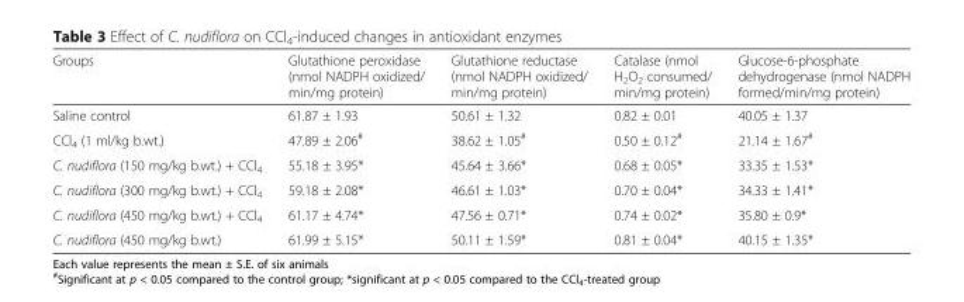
<table><thead><tr><td>Groups</td><td>Glutathione peroxidase (nmol NADPH oxidized/ min/mg protein)</td><td>Glutathione reductase (nmol NADPH oxidized/ min/mg protein)</td><td>Catalase (nmol H<sub>2</sub>O<sub>2</sub> consumed/ min/mg protein)</td><td>Glucose-6-phosphate dehydrogenase (nmol NADPH formed/min/mg protein)</td></tr></thead><tbody><tr><td>Saline control</td><td>61.87 ± 1.93</td><td>50.61 ± 1.32</td><td>0.82 ± 0.01</td><td>40.05 ± 1.37</td></tr><tr><td>CCl<sub>4</sub> (1 ml/kg b.wt.)</td><td>47.89 ± 2.06<sup>#</sup></td><td>38.62 ± 1.05<sup>#</sup></td><td>0.50 ± 0.12<sup>#</sup></td><td>21.14 ± 1.67<sup>#</sup></td></tr><tr><td>C. nudiflora (150 mg/kg b.wt.) + CCl<sub>4</sub></td><td>55.18 ± 3.95*</td><td>45.64 ± 3.66*</td><td>0.68 ± 0.05*</td><td>33.35 ± 1.53*</td></tr><tr><td>C. nudiflora (300 mg/kg b.wt.) + CCl<sub>4</sub></td><td>59.18 ± 2.08*</td><td>46.61 ± 1.03*</td><td>0.70 ± 0.04*</td><td>34.33 ± 1.41*</td></tr><tr><td>C. nudiflora (450 mg/kg b.wt.) + CCl<sub>4</sub></td><td>61.17 ± 4.74*</td><td>47.56 ± 0.71*</td><td>0.74 ± 0.02*</td><td>35.80 ± 0.9*</td></tr><tr><td>C. nudiflora (450 mg/kg b.wt.)</td><td>61.99 ± 5.15*</td><td>50.11 ± 1.59*</td><td>0.81 ± 0.04*</td><td>40.15 ± 1.35*</td></tr></tbody></table>